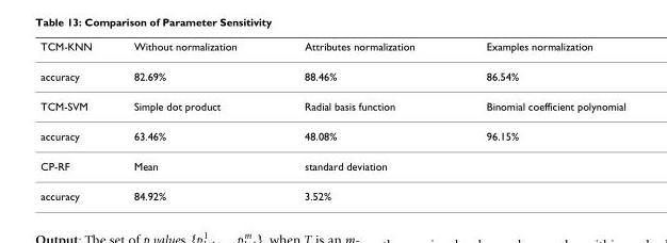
<table><thead><tr><td>TCM-KNN</td><td>Without normalization</td><td>Attributes normalization</td><td>Examples normalization</td></tr></thead><tbody><tr><td>accuracy</td><td>82.69%</td><td>88.46%</td><td>86.54%</td></tr><tr><td>TCM-SVM</td><td>Simple dot product</td><td>Radial basis function</td><td>Binomial coefficient polynomial</td></tr><tr><td>accuracy</td><td>63.46%</td><td>48.08%</td><td>96.15%</td></tr><tr><td>CP-RF</td><td>Mean</td><td colspan="2">standard deviation</td></tr><tr><td>accuracy</td><td>84.92%</td><td colspan="2">3.52%</td></tr></tbody></table>